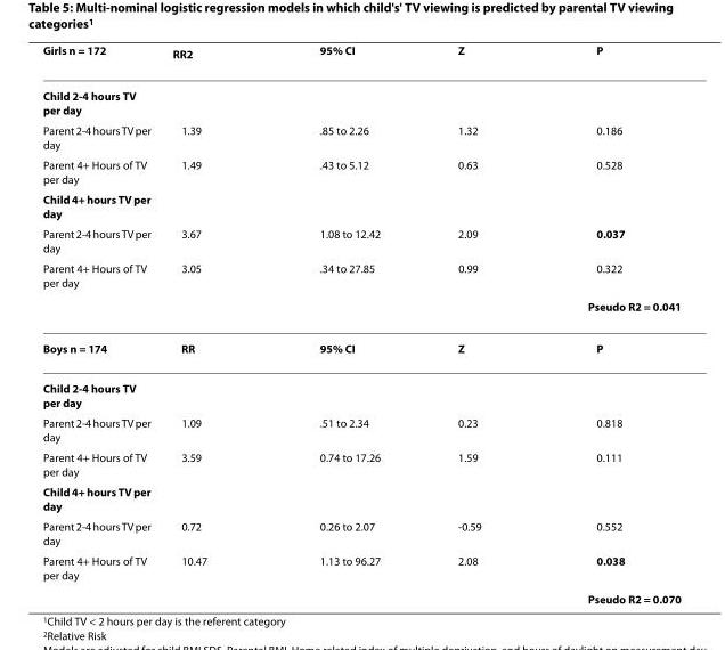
<table><thead><tr><td>Girls n = 172</td><td>RR<sup>2</sup></td><td>95% CI</td><td>Z</td><td>P</td></tr></thead><tbody><tr><td colspan="5">Child 2-4 hours TV per day</td></tr><tr><td>Parent 2-4 hours TV per day</td><td>1.39</td><td>.85 to 2.26</td><td>1.32</td><td>0.186</td></tr><tr><td>Parent 4+ Hours of TV per day</td><td>1.49</td><td>.43 to 5.12</td><td>0.63</td><td>0.528</td></tr><tr><td colspan="5">Child 4+ hours TV per day</td></tr><tr><td>Parent 2-4 hours TV per day</td><td>3.67</td><td>1.08 to 12.42</td><td>2.09</td><td>0.037</td></tr><tr><td rowspan="2">Parent 4+ Hours of TV per day</td><td>3.05</td><td>.34 to 27.85</td><td>0.99</td><td>0.322</td></tr><tr><td></td><td></td><td></td><td>Pseudo R<sup>2</sup> = 0.041</td></tr><tr><td>Boys n = 174</td><td>RR</td><td>95% CI</td><td>Z</td><td>P</td></tr><tr><td colspan="5">Child 2-4 hours TV per day</td></tr><tr><td>Parent 2-4 hours TV per day</td><td>1.09</td><td>.51 to 2.34</td><td>0.23</td><td>0.818</td></tr><tr><td>Parent 4+ Hours of TV per day</td><td>3.59</td><td>0.74 to 17.26</td><td>1.59</td><td>0.111</td></tr><tr><td colspan="5">Child 4+ hours TV per day</td></tr><tr><td>Parent 2-4 hours TV per day</td><td>0.72</td><td>0.26 to 2.07</td><td>-0.59</td><td>0.552</td></tr><tr><td rowspan="2">Parent 4+ Hours of TV per day</td><td>10.47</td><td>1.13 to 96.27</td><td>2.08</td><td>0.038</td></tr><tr><td></td><td></td><td></td><td>Pseudo R<sup>2</sup> = 0.070</td></tr></tbody></table>